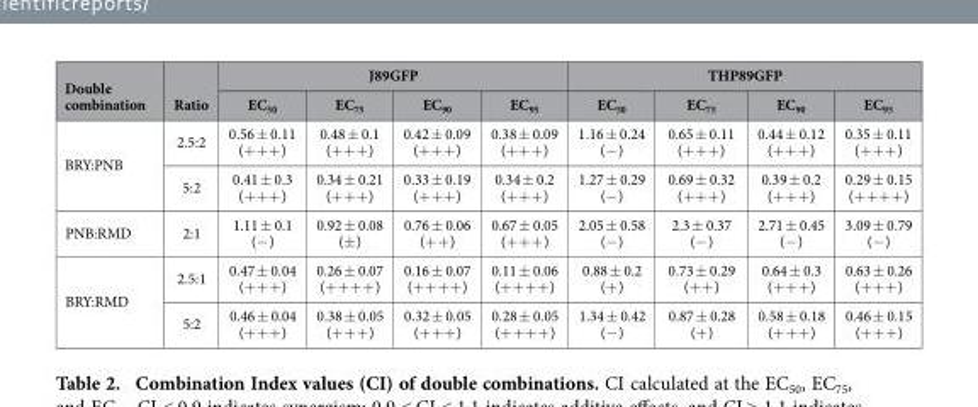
<table><thead><tr><td rowspan="2">Double combination</td><td rowspan="2">Ratio</td><td colspan="4">J89GFP</td><td colspan="4">THP89GFP</td></tr><tr><td>EC<sub>50</sub></td><td>EC<sub>75</sub></td><td>EC<sub>90</sub></td><td>EC<sub>95</sub></td><td>EC<sub>50</sub></td><td>EC<sub>75</sub></td><td>EC<sub>90</sub></td><td>EC<sub>95</sub></td></tr></thead><tbody><tr><td rowspan="2">BRY:PNB</td><td>2.5:2</td><td>0.56 ± 0.11 (+ + + )</td><td>0.48 ± 0.1 (+ + + )</td><td>0.42 ± 0.09 (+ + + )</td><td>0.38 ± 0.09 (+ + + )</td><td>1.16 ± 0.24 (− )</td><td>0.65 ± 0.11 (+ + + )</td><td>0.44 ± 0.12 (+ + + )</td><td>0.35 ± 0.11 (+ + + )</td></tr><tr><td>5:2</td><td>0.41 ± 0.3 (+ + + )</td><td>0.34 ± 0.21 (+ + + )</td><td>0.33 ± 0.19 (+ + + )</td><td>0.34 ± 0.2 (+ + + )</td><td>1.27 ± 0.29 (− )</td><td>0.69 ± 0.32 (+ + + )</td><td>0.39 ± 0.2 (+ + + )</td><td>0.29 ± 0.15 (+ + + + )</td></tr><tr><td>PNB:RMD</td><td>2:1</td><td>1.11 ± 0.1 (− )</td><td>0.92 ± 0.08 (± )</td><td>0.76 ± 0.06 (+ + )</td><td>0.67 ± 0.05 (+ + + )</td><td>2.05 ± 0.58 (− )</td><td>2.3 ± 0.37 (− )</td><td>2.71 ± 0.45 (− )</td><td>3.09 ± 0.79 (− )</td></tr><tr><td rowspan="2">BRY:RMD</td><td>2.5:1</td><td>0.47 ± 0.04 (+ + + )</td><td>0.26 ± 0.07 (+ + + + )</td><td>0.16 ± 0.07 (+ + + + )</td><td>0.11 ± 0.06 (+ + + + )</td><td>0.88 ± 0.2 (+ )</td><td>0.73 ± 0.29 (+ + )</td><td>0.64 ± 0.3 (+ + + )</td><td>0.63 ± 0.26 (+ + + )</td></tr><tr><td>5:2</td><td>0.46 ± 0.04 (+ + + )</td><td>0.38 ± 0.05 (+ + + )</td><td>0.32 ± 0.05 (+ + + )</td><td>0.28 ± 0.05 (+ + + + )</td><td>1.34 ± 0.42 (− )</td><td>0.87 ± 0.28 (+ )</td><td>0.58 ± 0.18 (+ + + )</td><td>0.46 ± 0.15 (+ + + )</td></tr></tbody></table>